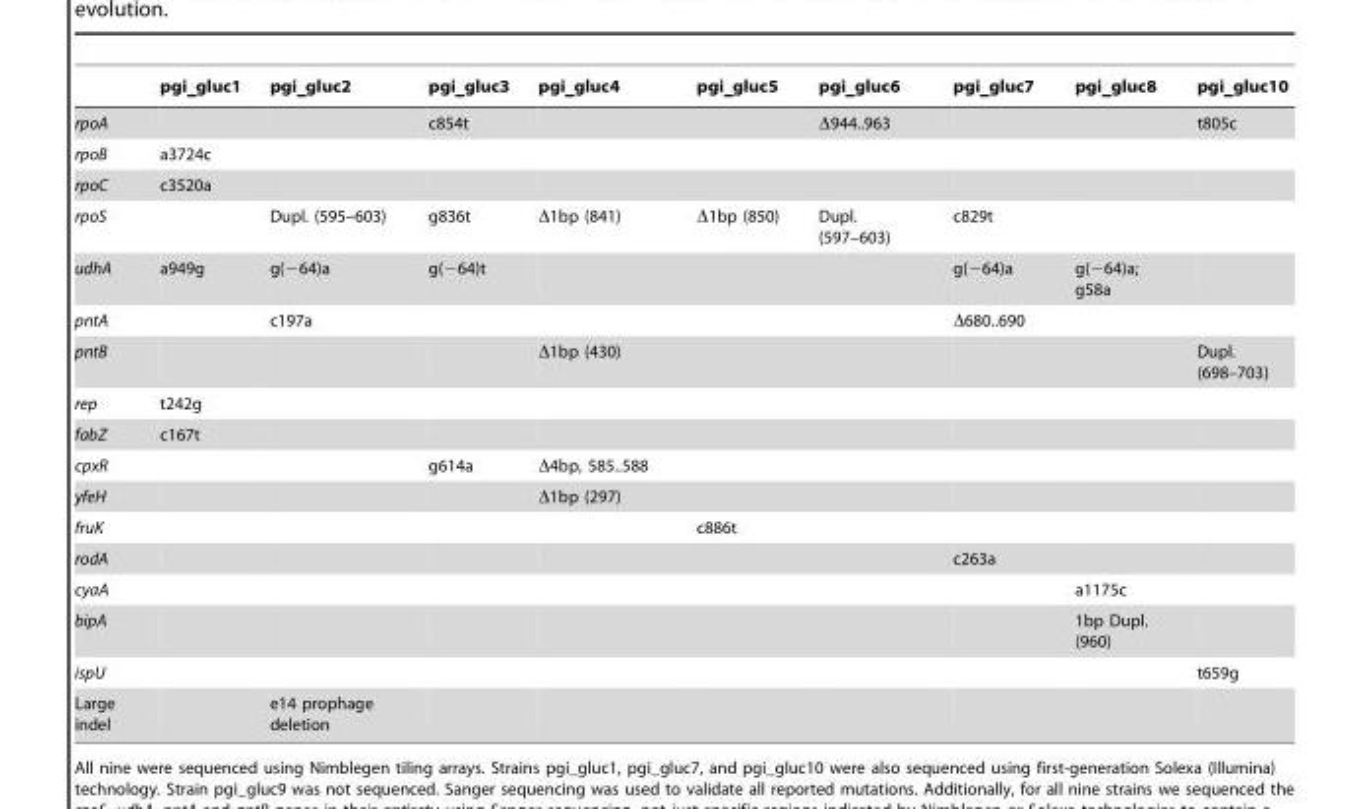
<table><thead><tr><td></td><td>pgi_gluc1</td><td>pgi_gluc2</td><td>pgi_gluc3</td><td>pgi_gluc4</td><td>pgi_gluc5</td><td>pgi_gluc6</td><td>pgi_gluc7</td><td>pgi_gluc8</td><td>pgi_gluc10</td></tr></thead><tbody><tr><td>rpoA</td><td></td><td></td><td>c854t</td><td></td><td></td><td>Δ944..963</td><td></td><td></td><td>t805c</td></tr><tr><td>rpoB</td><td>a3724c</td><td></td><td></td><td></td><td></td><td></td><td></td><td></td><td></td></tr><tr><td>rpoC</td><td>c3520a</td><td></td><td></td><td></td><td></td><td></td><td></td><td></td><td></td></tr><tr><td>rpoS</td><td></td><td>Dupl. (595–603)</td><td>g836t</td><td>Δ1bp (841)</td><td>Δ1bp (850)</td><td>Dupl. (597–603)</td><td>c829t</td><td></td><td></td></tr><tr><td>udhA</td><td>a949g</td><td>g(−64)a</td><td>g(−64)t</td><td></td><td></td><td></td><td>g(−64)a</td><td>g(−64)a; g58a</td><td></td></tr><tr><td>pntA</td><td></td><td>c197a</td><td></td><td></td><td></td><td></td><td>Δ680..690</td><td></td><td></td></tr><tr><td>pntB</td><td></td><td></td><td></td><td>Δ1bp (430)</td><td></td><td></td><td></td><td></td><td>Dupl. (698–703)</td></tr><tr><td>rep</td><td>t242g</td><td></td><td></td><td></td><td></td><td></td><td></td><td></td><td></td></tr><tr><td>fabZ</td><td>c167t</td><td></td><td></td><td></td><td></td><td></td><td></td><td></td><td></td></tr><tr><td>cpxR</td><td></td><td></td><td>g614a</td><td>Δ4bp, 585..588</td><td></td><td></td><td></td><td></td><td></td></tr><tr><td>yfeH</td><td></td><td></td><td></td><td>Δ1bp (297)</td><td></td><td></td><td></td><td></td><td></td></tr><tr><td>fruK</td><td></td><td></td><td></td><td></td><td>c886t</td><td></td><td></td><td></td><td></td></tr><tr><td>rodA</td><td></td><td></td><td></td><td></td><td></td><td></td><td>c263a</td><td></td><td></td></tr><tr><td>cyaA</td><td></td><td></td><td></td><td></td><td></td><td></td><td></td><td>a1175c</td><td></td></tr><tr><td>bipA</td><td></td><td></td><td></td><td></td><td></td><td></td><td></td><td>1bp Dupl. (960)</td><td></td></tr><tr><td>ispU</td><td></td><td></td><td></td><td></td><td></td><td></td><td></td><td></td><td>t659g</td></tr><tr><td>Large indel</td><td></td><td>e14 prophage deletion</td><td></td><td></td><td></td><td></td><td></td><td></td><td></td></tr></tbody></table>